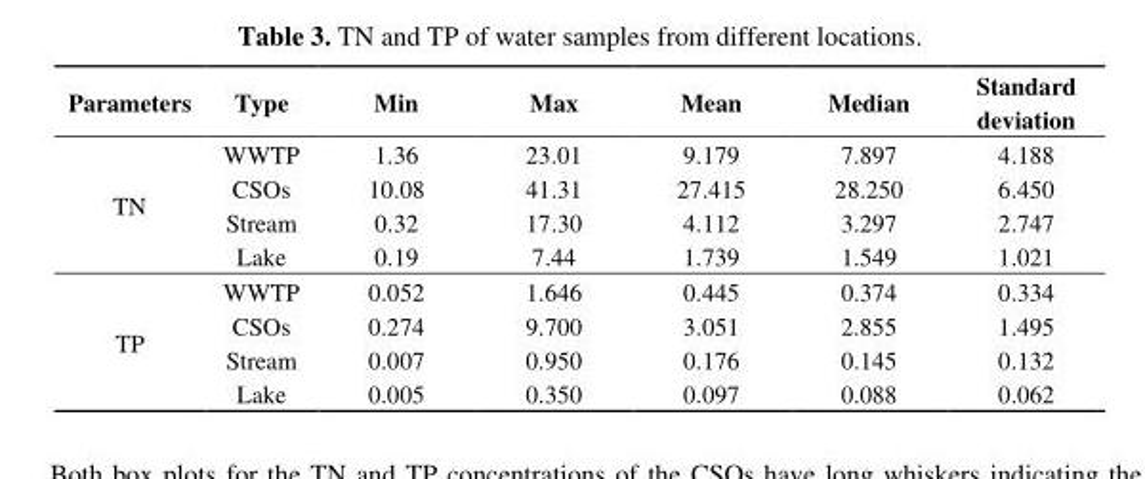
<table><thead><tr><td>Parameters</td><td>Type</td><td>Min</td><td>Max</td><td>Mean</td><td>Median</td><td>Standard deviation</td></tr></thead><tbody><tr><td rowspan="4">TN</td><td>WWTP</td><td>1.36</td><td>23.01</td><td>9.179</td><td>7.897</td><td>4.188</td></tr><tr><td>CSOs</td><td>10.08</td><td>41.31</td><td>27.415</td><td>28.250</td><td>6.450</td></tr><tr><td>Stream</td><td>0.32</td><td>17.30</td><td>4.112</td><td>3.297</td><td>2.747</td></tr><tr><td>Lake</td><td>0.19</td><td>7.44</td><td>1.739</td><td>1.549</td><td>1.021</td></tr><tr><td rowspan="4">TP</td><td>WWTP</td><td>0.052</td><td>1.646</td><td>0.445</td><td>0.374</td><td>0.334</td></tr><tr><td>CSOs</td><td>0.274</td><td>9.700</td><td>3.051</td><td>2.855</td><td>1.495</td></tr><tr><td>Stream</td><td>0.007</td><td>0.950</td><td>0.176</td><td>0.145</td><td>0.132</td></tr><tr><td>Lake</td><td>0.005</td><td>0.350</td><td>0.097</td><td>0.088</td><td>0.062</td></tr></tbody></table>